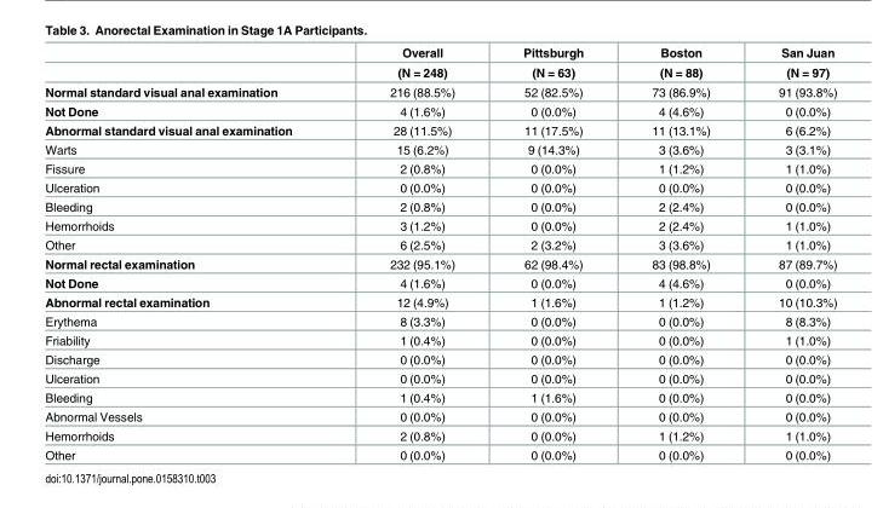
<table><thead><tr><td rowspan="2"></td><td rowspan="2">Overall (N = 248)</td><td rowspan="2">Pittsburgh (N = 63)</td><td rowspan="2">Boston (N = 88)</td><td rowspan="2">San Juan (N = 97)</td></tr><tr></tr></thead><tbody><tr><td>Normal standard visual anal examination</td><td>216 (88.5%)</td><td>52 (82.5%)</td><td>73 (86.9%)</td><td>91 (93.8%)</td></tr><tr><td>Not Done</td><td>4 (1.6%)</td><td>0 (0.0%)</td><td>4 (4.6%)</td><td>0 (0.0%)</td></tr><tr><td>Abnormal standard visual anal examination</td><td>28 (11.5%)</td><td>11 (17.5%)</td><td>11 (13.1%)</td><td>6 (6.2%)</td></tr><tr><td>Warts</td><td>15 (6.2%)</td><td>9 (14.3%)</td><td>3 (3.6%)</td><td>3 (3.1%)</td></tr><tr><td>Fissure</td><td>2 (0.8%)</td><td>0 (0.0%)</td><td>1 (1.2%)</td><td>1 (1.0%)</td></tr><tr><td>Ulceration</td><td>0 (0.0%)</td><td>0 (0.0%)</td><td>0 (0.0%)</td><td>0 (0.0%)</td></tr><tr><td>Bleeding</td><td>2 (0.8%)</td><td>0 (0.0%)</td><td>2 (2.4%)</td><td>0 (0.0%)</td></tr><tr><td>Hemorrhoids</td><td>3 (1.2%)</td><td>0 (0.0%)</td><td>2 (2.4%)</td><td>1 (1.0%)</td></tr><tr><td>Other</td><td>6 (2.5%)</td><td>2 (3.2%)</td><td>3 (3.6%)</td><td>1 (1.0%)</td></tr><tr><td>Normal rectal examination</td><td>232 (95.1%)</td><td>62 (98.4%)</td><td>83 (98.8%)</td><td>87 (89.7%)</td></tr><tr><td>Not Done</td><td>4 (1.6%)</td><td>0 (0.0%)</td><td>4 (4.6%)</td><td>0 (0.0%)</td></tr><tr><td>Abnormal rectal examination</td><td>12 (4.9%)</td><td>1 (1.6%)</td><td>1 (1.2%)</td><td>10 (10.3%)</td></tr><tr><td>Erythema</td><td>8 (3.3%)</td><td>0 (0.0%)</td><td>0 (0.0%)</td><td>8 (8.3%)</td></tr><tr><td>Friability</td><td>1 (0.4%)</td><td>0 (0.0%)</td><td>0 (0.0%)</td><td>1 (1.0%)</td></tr><tr><td>Discharge</td><td>0 (0.0%)</td><td>0 (0.0%)</td><td>0 (0.0%)</td><td>0 (0.0%)</td></tr><tr><td>Ulceration</td><td>0 (0.0%)</td><td>0 (0.0%)</td><td>0 (0.0%)</td><td>0 (0.0%)</td></tr><tr><td>Bleeding</td><td>1 (0.4%)</td><td>1 (1.6%)</td><td>0 (0.0%)</td><td>0 (0.0%)</td></tr><tr><td>Abnormal Vessels</td><td>0 (0.0%)</td><td>0 (0.0%)</td><td>0 (0.0%)</td><td>0 (0.0%)</td></tr><tr><td>Hemorrhoids</td><td>2 (0.8%)</td><td>0 (0.0%)</td><td>1 (1.2%)</td><td>1 (1.0%)</td></tr><tr><td>Other</td><td>0 (0.0%)</td><td>0 (0.0%)</td><td>0 (0.0%)</td><td>0 (0.0%)</td></tr></tbody></table>